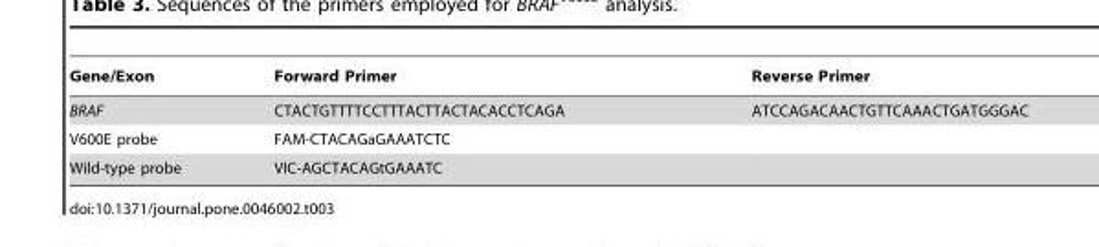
<table><thead><tr><td>Gene/Exon</td><td>Forward Primer</td><td>Reverse Primer</td></tr></thead><tbody><tr><td>BRAF</td><td>CTACTGTTTTCCTTTACTTACTACACCTCAGA</td><td>ATCCAGACAACTGTTCAAACTGATGGGAC</td></tr><tr><td>V600E probe</td><td>FAM-CTACAGaGAAATCTC</td><td></td></tr><tr><td>Wild-type probe</td><td>VIC-AGCTACAGtGAAATC</td><td></td></tr></tbody></table>